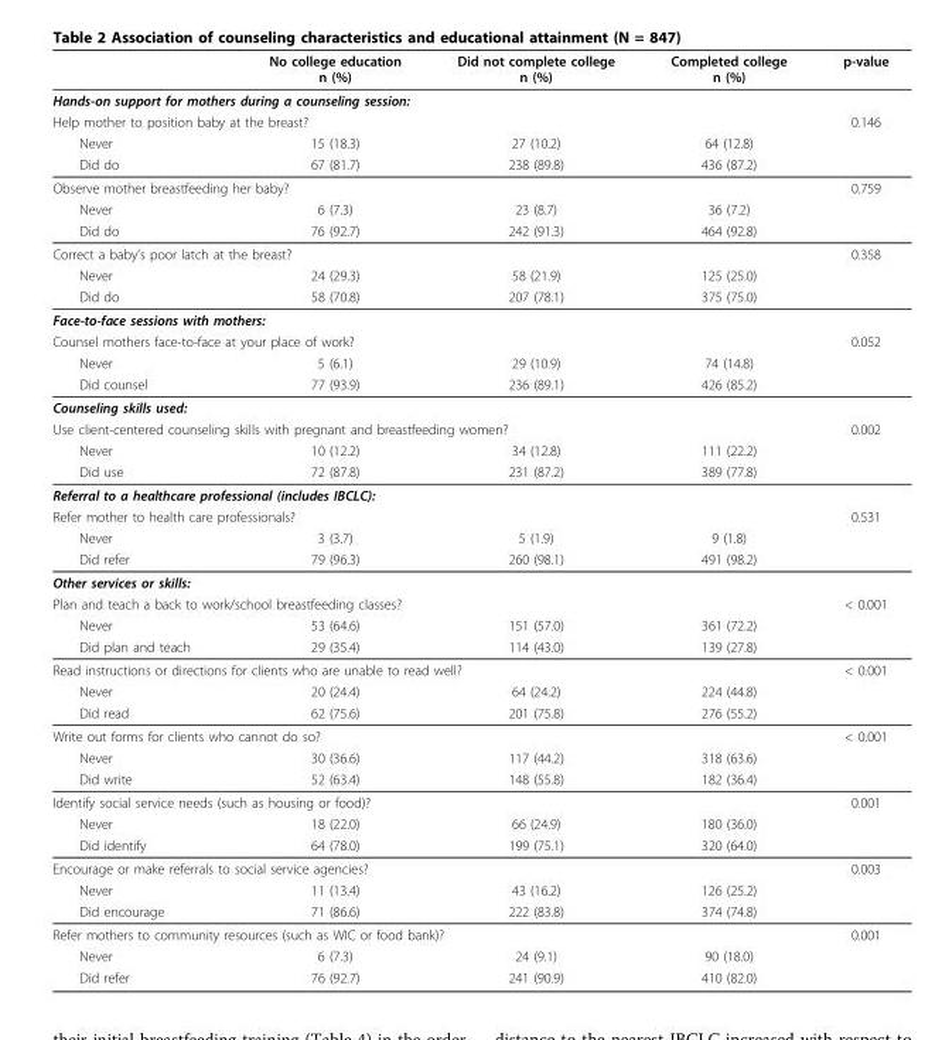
<table><thead><tr><td></td><td>No college education n (%)</td><td>Did not complete college n (%)</td><td>Completed college n (%)</td><td>p-value</td></tr></thead><tbody><tr><td colspan="5">Hands-on support for mothers during a counseling session:</td></tr><tr><td colspan="4">Help mother to position baby at the breast?</td><td>0.146</td></tr><tr><td>Never</td><td>15 (18.3)</td><td>27 (10.2)</td><td>64 (12.8)</td><td></td></tr><tr><td>Did do</td><td>67 (81.7)</td><td>238 (89.8)</td><td>436 (87.2)</td><td></td></tr><tr><td colspan="4">Observe mother breastfeeding her baby?</td><td>0.759</td></tr><tr><td>Never</td><td>6 (7.3)</td><td>23 (8.7)</td><td>36 (7.2)</td><td></td></tr><tr><td>Did do</td><td>76 (92.7)</td><td>242 (91.3)</td><td>464 (92.8)</td><td></td></tr><tr><td colspan="4">Correct a baby’s poor latch at the breast?</td><td>0.358</td></tr><tr><td>Never</td><td>24 (29.3)</td><td>58 (21.9)</td><td>125 (25.0)</td><td></td></tr><tr><td>Did do</td><td>58 (70.8)</td><td>207 (78.1)</td><td>375 (75.0)</td><td></td></tr><tr><td colspan="5">Face-to-face sessions with mothers:</td></tr><tr><td colspan="4">Counsel mothers face-to-face at your place of work?</td><td>0.052</td></tr><tr><td>Never</td><td>5 (6.1)</td><td>29 (10.9)</td><td>74 (14.8)</td><td></td></tr><tr><td>Did counsel</td><td>77 (93.9)</td><td>236 (89.1)</td><td>426 (85.2)</td><td></td></tr><tr><td colspan="5">Counseling skills used:</td></tr><tr><td colspan="4">Use client-centered counseling skills with pregnant and breastfeeding women?</td><td>0.002</td></tr><tr><td>Never</td><td>10 (12.2)</td><td>34 (12.8)</td><td>111 (22.2)</td><td></td></tr><tr><td>Did use</td><td>72 (87.8)</td><td>231 (87.2)</td><td>389 (77.8)</td><td></td></tr><tr><td colspan="5">Referral to a healthcare professional (includes IBCLC):</td></tr><tr><td colspan="4">Refer mother to health care professionals?</td><td>0.531</td></tr><tr><td>Never</td><td>3 (3.7)</td><td>5 (1.9)</td><td>9 (1.8)</td><td></td></tr><tr><td>Did refer</td><td>79 (96.3)</td><td>260 (98.1)</td><td>491 (98.2)</td><td></td></tr><tr><td colspan="5">Other services or skills:</td></tr><tr><td colspan="4">Plan and teach a back to work/school breastfeeding classes?</td><td>&lt; 0.001</td></tr><tr><td>Never</td><td>53 (64.6)</td><td>151 (57.0)</td><td>361 (72.2)</td><td></td></tr><tr><td>Did plan and teach</td><td>29 (35.4)</td><td>114 (43.0)</td><td>139 (27.8)</td><td></td></tr><tr><td colspan="4">Read instructions or directions for clients who are unable to read well?</td><td>&lt; 0.001</td></tr><tr><td>Never</td><td>20 (24.4)</td><td>64 (24.2)</td><td>224 (44.8)</td><td></td></tr><tr><td>Did read</td><td>62 (75.6)</td><td>201 (75.8)</td><td>276 (55.2)</td><td></td></tr><tr><td colspan="4">Write out forms for clients who cannot do so?</td><td>&lt; 0.001</td></tr><tr><td>Never</td><td>30 (36.6)</td><td>117 (44.2)</td><td>318 (63.6)</td><td></td></tr><tr><td>Did write</td><td>52 (63.4)</td><td>148 (55.8)</td><td>182 (36.4)</td><td></td></tr><tr><td colspan="4">Identify social service needs (such as housing or food)?</td><td>0.001</td></tr><tr><td>Never</td><td>18 (22.0)</td><td>66 (24.9)</td><td>180 (36.0)</td><td></td></tr><tr><td>Did identify</td><td>64 (78.0)</td><td>199 (75.1)</td><td>320 (64.0)</td><td></td></tr><tr><td colspan="4">Encourage or make referrals to social service agencies?</td><td>0.003</td></tr><tr><td>Never</td><td>11 (13.4)</td><td>43 (16.2)</td><td>126 (25.2)</td><td></td></tr><tr><td>Did encourage</td><td>71 (86.6)</td><td>222 (83.8)</td><td>374 (74.8)</td><td></td></tr><tr><td colspan="4">Refer mothers to community resources (such as WIC or food bank)?</td><td>0.001</td></tr><tr><td>Never</td><td>6 (7.3)</td><td>24 (9.1)</td><td>90 (18.0)</td><td></td></tr><tr><td>Did refer</td><td>76 (92.7)</td><td>241 (90.9)</td><td>410 (82.0)</td><td></td></tr></tbody></table>